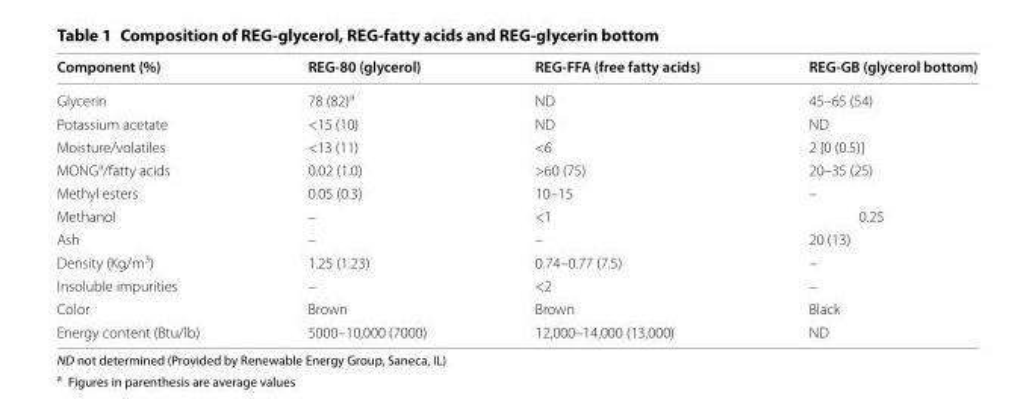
<table><thead><tr><td>Component (%)</td><td>REG-80 (glycerol)</td><td>REG-FFA (free fatty acids)</td><td>REG-GB (glycerol bottom)</td></tr></thead><tbody><tr><td>Glycerin</td><td>78 (82)<sup>a</sup></td><td>ND</td><td>45–65 (54)</td></tr><tr><td>Potassium acetate</td><td>&lt;15 (10)</td><td>ND</td><td>ND</td></tr><tr><td>Moisture/volatiles</td><td>&lt;13 (11)</td><td>&lt;6</td><td>2 [0 (0.5)]</td></tr><tr><td>MONG<sup>a</sup>/fatty acids</td><td>0.02 (1.0)</td><td>&gt;60 (75)</td><td>20–35 (25)</td></tr><tr><td>Methyl esters</td><td>0.05 (0.3)</td><td>10–15</td><td>–</td></tr><tr><td>Methanol</td><td>–</td><td>&lt;1</td><td>0.25</td></tr><tr><td>Ash</td><td>–</td><td>–</td><td>20 (13)</td></tr><tr><td>Density (Kg/m<sup>3</sup>)</td><td>1.25 (1.23)</td><td>0.74–0.77 (7.5)</td><td>–</td></tr><tr><td>Insoluble impurities</td><td>–</td><td>&lt;2</td><td>–</td></tr><tr><td>Color</td><td>Brown</td><td>Brown</td><td>Black</td></tr><tr><td>Energy content (Btu/lb)</td><td>5000–10,000 (7000)</td><td>12,000–14,000 (13,000)</td><td>ND</td></tr></tbody></table>